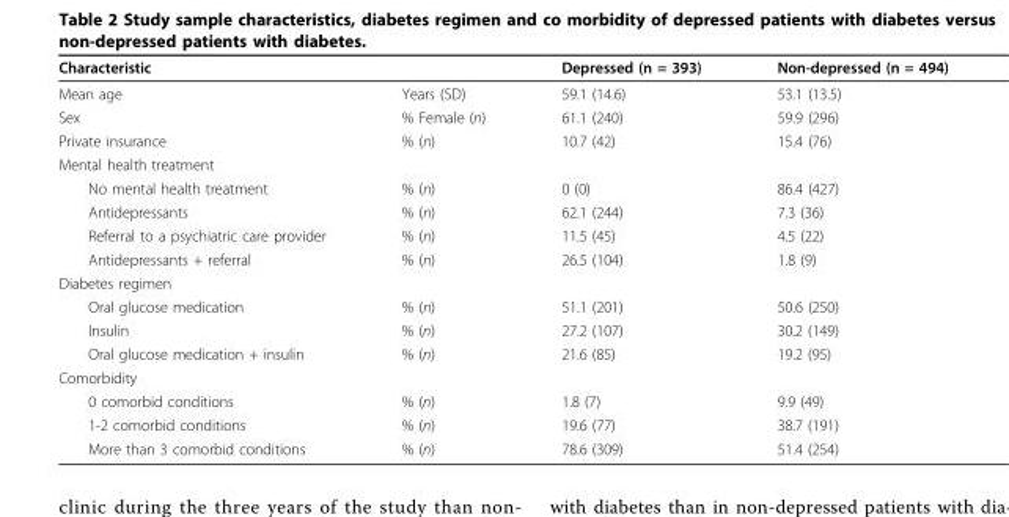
<table><thead><tr><td>Characteristic</td><td></td><td>Depressed (n = 393)</td><td>Non-depressed (n = 494)</td></tr></thead><tbody><tr><td>Mean age</td><td>Years (SD)</td><td>59.1 (14.6)</td><td>53.1 (13.5)</td></tr><tr><td>Sex</td><td>% Female (n)</td><td>61.1 (240)</td><td>59.9 (296)</td></tr><tr><td>Private insurance</td><td>% (n)</td><td>10.7 (42)</td><td>15.4 (76)</td></tr><tr><td colspan="4">Mental health treatment</td></tr><tr><td>No mental health treatment</td><td>% (n)</td><td>0 (0)</td><td>86.4 (427)</td></tr><tr><td>Antidepressants</td><td>% (n)</td><td>62.1 (244)</td><td>7.3 (36)</td></tr><tr><td>Referral to a psychiatric care provider</td><td>% (n)</td><td>11.5 (45)</td><td>4.5 (22)</td></tr><tr><td>Antidepressants + referral</td><td>% (n)</td><td>26.5 (104)</td><td>1.8 (9)</td></tr><tr><td colspan="4">Diabetes regimen</td></tr><tr><td>Oral glucose medication</td><td>% (n)</td><td>51.1 (201)</td><td>50.6 (250)</td></tr><tr><td>Insulin</td><td>% (n)</td><td>27.2 (107)</td><td>30.2 (149)</td></tr><tr><td>Oral glucose medication + insulin</td><td>% (n)</td><td>21.6 (85)</td><td>19.2 (95)</td></tr><tr><td colspan="4">Comorbidity</td></tr><tr><td>0 comorbid conditions</td><td>% (n)</td><td>1.8 (7)</td><td>9.9 (49)</td></tr><tr><td>1-2 comorbid conditions</td><td>% (n)</td><td>19.6 (77)</td><td>38.7 (191)</td></tr><tr><td>More than 3 comorbid conditions</td><td>% (n)</td><td>78.6 (309)</td><td>51.4 (254)</td></tr></tbody></table>